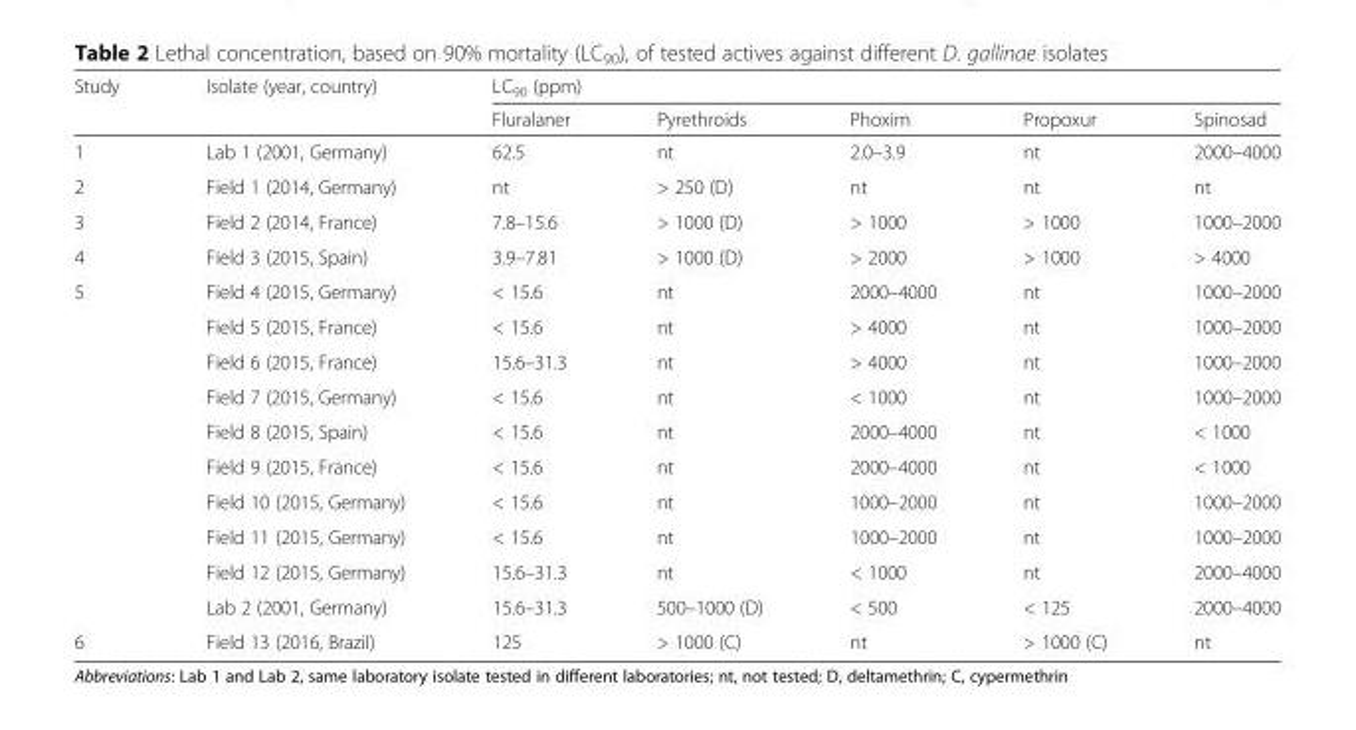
<table><thead><tr><td rowspan="2">Study</td><td rowspan="2">Isolate (year, country)</td><td colspan="5">LC<sub>90</sub> (ppm)</td></tr><tr><td>Fluralaner</td><td>Pyrethroids</td><td>Phoxim</td><td>Propoxur</td><td>Spinosad</td></tr></thead><tbody><tr><td>1</td><td>Lab 1 (2001, Germany)</td><td>62.5</td><td>nt</td><td>2.0–3.9</td><td>nt</td><td>2000–4000</td></tr><tr><td>2</td><td>Field 1 (2014, Germany)</td><td>nt</td><td>&gt; 250 (D)</td><td>nt</td><td>nt</td><td>nt</td></tr><tr><td>3</td><td>Field 2 (2014, France)</td><td>7.8–15.6</td><td>&gt; 1000 (D)</td><td>&gt; 1000</td><td>&gt; 1000</td><td>1000–2000</td></tr><tr><td>4</td><td>Field 3 (2015, Spain)</td><td>3.9–7.81</td><td>&gt; 1000 (D)</td><td>&gt; 2000</td><td>&gt; 1000</td><td>&gt; 4000</td></tr><tr><td rowspan="10">5</td><td>Field 4 (2015, Germany)</td><td>&lt; 15.6</td><td>nt</td><td>2000–4000</td><td>nt</td><td>1000–2000</td></tr><tr><td>Field 5 (2015, France)</td><td>&lt; 15.6</td><td>nt</td><td>&gt; 4000</td><td>nt</td><td>1000–2000</td></tr><tr><td>Field 6 (2015, France)</td><td>15.6–31.3</td><td>nt</td><td>&gt; 4000</td><td>nt</td><td>1000–2000</td></tr><tr><td>Field 7 (2015, Germany)</td><td>&lt; 15.6</td><td>nt</td><td>&lt; 1000</td><td>nt</td><td>1000–2000</td></tr><tr><td>Field 8 (2015, Spain)</td><td>&lt; 15.6</td><td>nt</td><td>2000–4000</td><td>nt</td><td>&lt; 1000</td></tr><tr><td>Field 9 (2015, France)</td><td>&lt; 15.6</td><td>nt</td><td>2000–4000</td><td>nt</td><td>&lt; 1000</td></tr><tr><td>Field 10 (2015, Germany)</td><td>&lt; 15.6</td><td>nt</td><td>1000–2000</td><td>nt</td><td>1000–2000</td></tr><tr><td>Field 11 (2015, Germany)</td><td>&lt; 15.6</td><td>nt</td><td>1000–2000</td><td>nt</td><td>1000–2000</td></tr><tr><td>Field 12 (2015, Germany)</td><td>15.6–31.3</td><td>nt</td><td>&lt; 1000</td><td>nt</td><td>2000–4000</td></tr><tr><td>Lab 2 (2001, Germany)</td><td>15.6–31.3</td><td>500–1000 (D)</td><td>&lt; 500</td><td>&lt; 125</td><td>2000–4000</td></tr><tr><td>6</td><td>Field 13 (2016, Brazil)</td><td>125</td><td>&gt; 1000 (C)</td><td>nt</td><td>&gt; 1000 (C)</td><td>nt</td></tr></tbody></table>